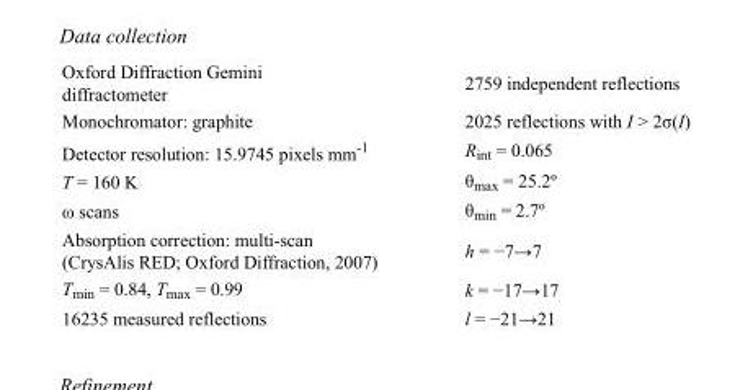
<table><tbody><tr><td>Oxford Diffraction Gemini diffractometer</td><td>2759 independent reflections</td></tr><tr><td>Monochromator: graphite</td><td>2025 reflections with I &gt; 2σ(I)</td></tr><tr><td>Detector resolution: 15.9745 pixels mm<sup>-1</sup></td><td>R<sub>int</sub> = 0.065</td></tr><tr><td>T = 160 K</td><td>θ<sub>max</sub> = 25.2º</td></tr><tr><td>ω scans</td><td>θ<sub>min</sub> = 2.7º</td></tr><tr><td>Absorption correction: multi-scan (CrysAlis RED; Oxford Diffraction, 2007)</td><td>h = −7→7</td></tr><tr><td>T<sub>min</sub> = 0.84, T<sub>max</sub> = 0.99</td><td>k = −17→17</td></tr><tr><td>16235 measured reflections</td><td>l = −21→21</td></tr></tbody></table>